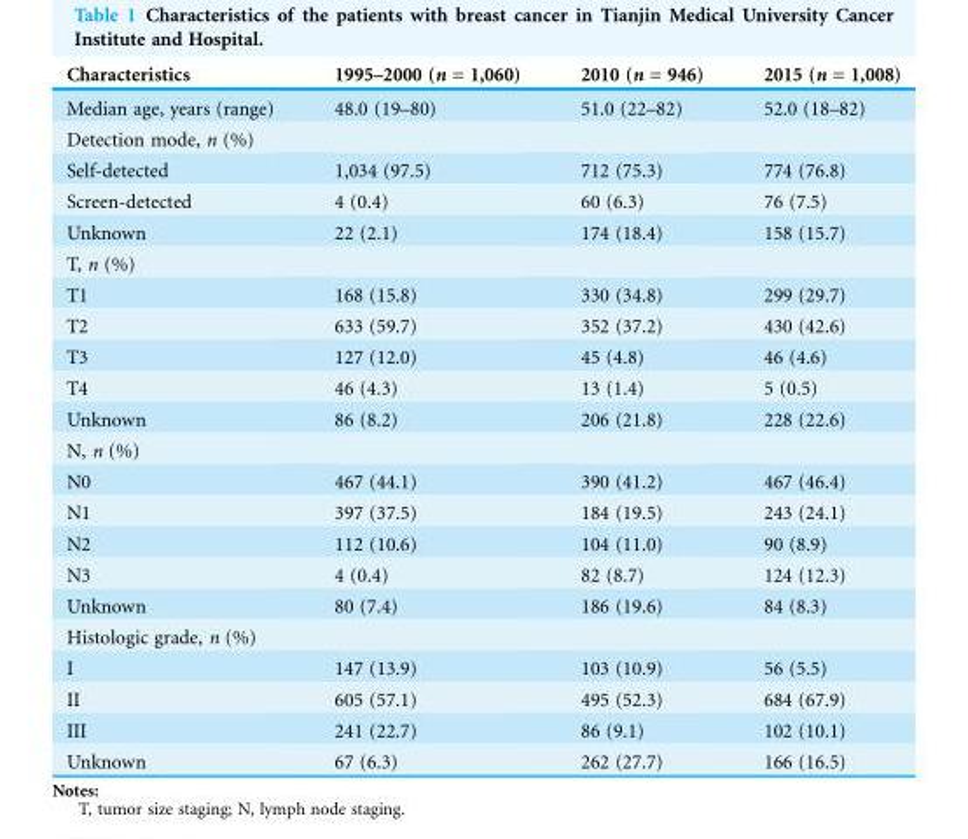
<table><thead><tr><td>Characteristics</td><td>1995–2000 (n = 1,060)</td><td>2010 (n = 946)</td><td>2015 (n = 1,008)</td></tr></thead><tbody><tr><td>Median age, years (range)</td><td>48.0 (19–80)</td><td>51.0 (22–82)</td><td>52.0 (18–82)</td></tr><tr><td colspan="4">Detection mode, n (%)</td></tr><tr><td>Self-detected</td><td>1,034 (97.5)</td><td>712 (75.3)</td><td>774 (76.8)</td></tr><tr><td>Screen-detected</td><td>4 (0.4)</td><td>60 (6.3)</td><td>76 (7.5)</td></tr><tr><td>Unknown</td><td>22 (2.1)</td><td>174 (18.4)</td><td>158 (15.7)</td></tr><tr><td colspan="4">T, n (%)</td></tr><tr><td>T1</td><td>168 (15.8)</td><td>330 (34.8)</td><td>299 (29.7)</td></tr><tr><td>T2</td><td>633 (59.7)</td><td>352 (37.2)</td><td>430 (42.6)</td></tr><tr><td>T3</td><td>127 (12.0)</td><td>45 (4.8)</td><td>46 (4.6)</td></tr><tr><td>T4</td><td>46 (4.3)</td><td>13 (1.4)</td><td>5 (0.5)</td></tr><tr><td>Unknown</td><td>86 (8.2)</td><td>206 (21.8)</td><td>228 (22.6)</td></tr><tr><td colspan="4">N, n (%)</td></tr><tr><td>N0</td><td>467 (44.1)</td><td>390 (41.2)</td><td>467 (46.4)</td></tr><tr><td>N1</td><td>397 (37.5)</td><td>184 (19.5)</td><td>243 (24.1)</td></tr><tr><td>N2</td><td>112 (10.6)</td><td>104 (11.0)</td><td>90 (8.9)</td></tr><tr><td>N3</td><td>4 (0.4)</td><td>82 (8.7)</td><td>124 (12.3)</td></tr><tr><td>Unknown</td><td>80 (7.4)</td><td>186 (19.6)</td><td>84 (8.3)</td></tr><tr><td colspan="4">Histologic grade, n (%)</td></tr><tr><td>I</td><td>147 (13.9)</td><td>103 (10.9)</td><td>56 (5.5)</td></tr><tr><td>II</td><td>605 (57.1)</td><td>495 (52.3)</td><td>684 (67.9)</td></tr><tr><td>III</td><td>241 (22.7)</td><td>86 (9.1)</td><td>102 (10.1)</td></tr><tr><td>Unknown</td><td>67 (6.3)</td><td>262 (27.7)</td><td>166 (16.5)</td></tr></tbody></table>